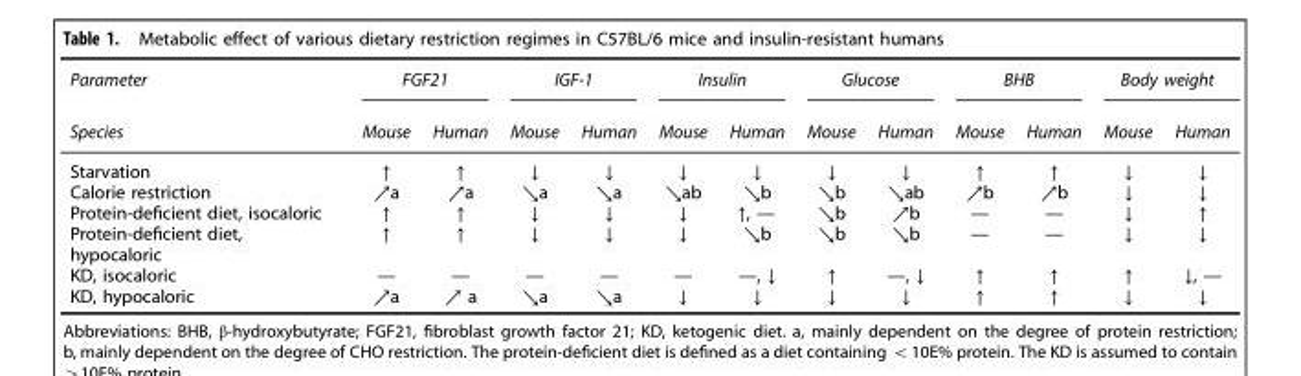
<table><thead><tr><td rowspan="2">Parameter Species</td><td colspan="2">FGF21</td><td colspan="2">IGF-1</td><td colspan="2">Insulin</td><td colspan="2">Glucose</td><td colspan="2">BHB</td><td colspan="2">Body weight</td></tr><tr><td>Mouse</td><td>Human</td><td>Mouse</td><td>Human</td><td>Mouse</td><td>Human</td><td>Mouse</td><td>Human</td><td>Mouse</td><td>Human</td><td>Mouse</td><td>Human</td></tr></thead><tbody><tr><td>Starvation</td><td>↑</td><td>↑</td><td>↓</td><td>↓</td><td>↓</td><td>↓</td><td>↓</td><td>↓</td><td>↑</td><td>↑</td><td>↓</td><td>↓</td></tr><tr><td>Calorie restriction</td><td>↗a</td><td>↗a</td><td>↘a</td><td>↘a</td><td>↘ab</td><td>↘b</td><td>↘b</td><td>↘ab</td><td>↗b</td><td>↗b</td><td>↓</td><td>↓</td></tr><tr><td>Protein-deficient diet, isocaloric</td><td>↑</td><td>↑</td><td>↓</td><td>↓</td><td>↓</td><td>↑, —</td><td>↘b</td><td>↗b</td><td>—</td><td>—</td><td>↓</td><td>↑</td></tr><tr><td>Protein-deficient diet, hypocaloric</td><td>↑</td><td>↑</td><td>↓</td><td>↓</td><td>↓</td><td>↘b</td><td>↘b</td><td>↘b</td><td>—</td><td>—</td><td>↓</td><td>↓</td></tr><tr><td>KD, isocaloric</td><td>—</td><td>—</td><td>—</td><td>—</td><td>—</td><td>—, ↓</td><td>↑</td><td>—, ↓</td><td>↑</td><td>↑</td><td>↑</td><td>↓, —</td></tr><tr><td>KD, hypocaloric</td><td>↗a</td><td>↗ a</td><td>↘a</td><td>↘a</td><td>↓</td><td>↓</td><td>↓</td><td>↓</td><td>↑</td><td>↑</td><td>↓</td><td>↓</td></tr></tbody></table>